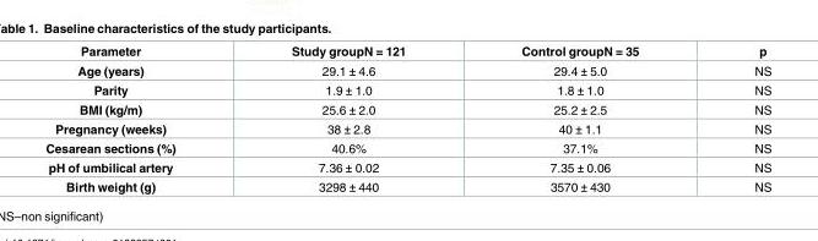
<table><thead><tr><td>Parameter</td><td>Study groupN = 121</td><td>Control groupN = 35</td><td>p</td></tr></thead><tbody><tr><td>Age (years)</td><td>29.1 ± 4.6</td><td>29.4 ± 5.0</td><td>NS</td></tr><tr><td>Parity</td><td>1.9 ± 1.0</td><td>1.8 ± 1.0</td><td>NS</td></tr><tr><td>BMI (kg/m)</td><td>25.6 ± 2.0</td><td>25.2 ± 2.5</td><td>NS</td></tr><tr><td>Pregnancy (weeks)</td><td>38 ± 2.8</td><td>40 ± 1.1</td><td>NS</td></tr><tr><td>Cesarean sections (%)</td><td>40.6%</td><td>37.1%</td><td>NS</td></tr><tr><td>pH of umbilical artery</td><td>7.36 ± 0.02</td><td>7.35 ± 0.06</td><td>NS</td></tr><tr><td>Birth weight (g)</td><td>3298 ± 440</td><td>3570 ± 430</td><td>NS</td></tr></tbody></table>